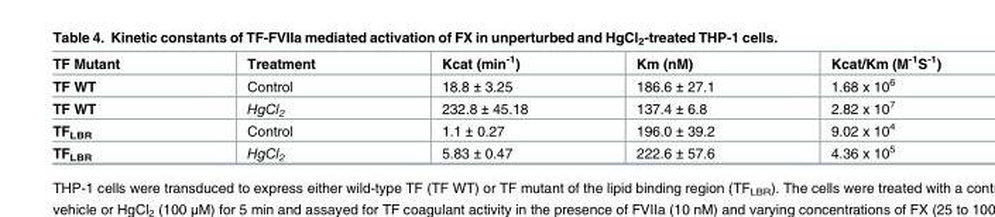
<table><thead><tr><td>TF Mutant</td><td>Treatment</td><td>Kcat (min<sup>-1</sup>)</td><td>Km (nM)</td><td>Kcat/Km (M<sup>-1</sup>S<sup>-1</sup>)</td></tr></thead><tbody><tr><td>TF WT</td><td>Control</td><td>18.8 ± 3.25</td><td>186.6 ± 27.1</td><td>1.68 x 10<sup>6</sup></td></tr><tr><td>TF WT</td><td>HgCl<sub>2</sub></td><td>232.8 ± 45.18</td><td>137.4 ± 6.8</td><td>2.82 x 10<sup>7</sup></td></tr><tr><td>TF<sub>LBR</sub></td><td>Control</td><td>1.1 ± 0.27</td><td>196.0 ± 39.2</td><td>9.02 x 10<sup>4</sup></td></tr><tr><td>TF<sub>LBR</sub></td><td>HgCl<sub>2</sub></td><td>5.83 ± 0.47</td><td>222.6 ± 57.6</td><td>4.36 x 10<sup>5</sup></td></tr></tbody></table>